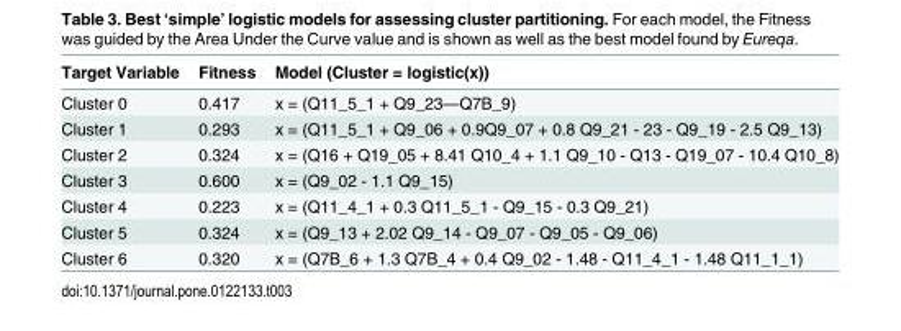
<table><thead><tr><td>Target Variable</td><td>Fitness</td><td>Model (Cluster = logistic(x))</td></tr></thead><tbody><tr><td>Cluster 0</td><td>0.417</td><td>x = (Q11_5_1 + Q9_23—Q7B_9)</td></tr><tr><td>Cluster 1</td><td>0.293</td><td>x = (Q11_5_1 + Q9_06 + 0.9Q9_07 + 0.8 Q9_21 - 23 - Q9_19 - 2.5 Q9_13)</td></tr><tr><td>Cluster 2</td><td>0.324</td><td>x = (Q16 + Q19_05 + 8.41 Q10_4 + 1.1 Q9_10 - Q13 - Q19_07 - 10.4 Q10_8)</td></tr><tr><td>Cluster 3</td><td>0.600</td><td>x = (Q9_02 - 1.1 Q9_15)</td></tr><tr><td>Cluster 4</td><td>0.223</td><td>x = (Q11_4_1 + 0.3 Q11_5_1 - Q9_15 - 0.3 Q9_21)</td></tr><tr><td>Cluster 5</td><td>0.324</td><td>x = (Q9_13 + 2.02 Q9_14 - Q9_07 - Q9_05 - Q9_06)</td></tr><tr><td>Cluster 6</td><td>0.320</td><td>x = (Q7B_6 + 1.3 Q7B_4 + 0.4 Q9_02 - 1.48 - Q11_4_1 - 1.48 Q11_1_1)</td></tr></tbody></table>